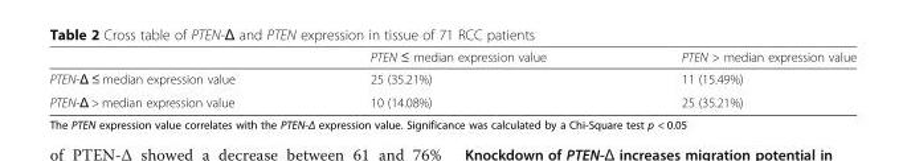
<table><thead><tr><td></td><td>PTEN ≤ median expression value</td><td>PTEN &gt; median expression value</td></tr></thead><tbody><tr><td>PTEN-Δ ≤ median expression value</td><td>25 (35.21%)</td><td>11 (15.49%)</td></tr><tr><td>PTEN-Δ &gt; median expression value</td><td>10 (14.08%)</td><td>25 (35.21%)</td></tr></tbody></table>